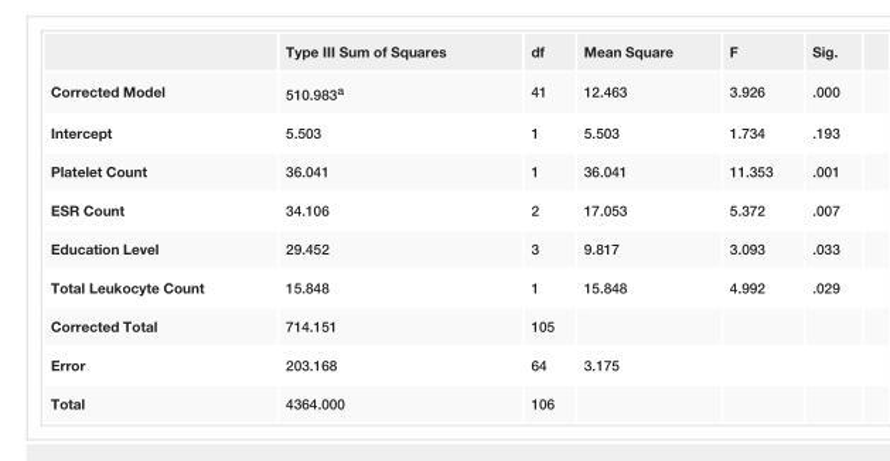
<table><thead><tr><td></td><td>Type III Sum of Squares</td><td>df</td><td>Mean Square</td><td>F</td><td>Sig.</td></tr></thead><tbody><tr><td>Corrected Model</td><td>510.983<sup>a</sup></td><td>41</td><td>12.463</td><td>3.926</td><td>.000</td></tr><tr><td>Intercept</td><td>5.503</td><td>1</td><td>5.503</td><td>1.734</td><td>.193</td></tr><tr><td>Platelet Count</td><td>36.041</td><td>1</td><td>36.041</td><td>11.353</td><td>.001</td></tr><tr><td>ESR Count</td><td>34.106</td><td>2</td><td>17.053</td><td>5.372</td><td>.007</td></tr><tr><td>Education Level</td><td>29.452</td><td>3</td><td>9.817</td><td>3.093</td><td>.033</td></tr><tr><td>Total Leukocyte Count</td><td>15.848</td><td>1</td><td>15.848</td><td>4.992</td><td>.029</td></tr><tr><td>Corrected Total</td><td>714.151</td><td>105</td><td></td><td></td><td></td></tr><tr><td>Error</td><td>203.168</td><td>64</td><td>3.175</td><td></td><td></td></tr><tr><td>Total</td><td>4364.000</td><td>106</td><td></td><td></td><td></td></tr></tbody></table>